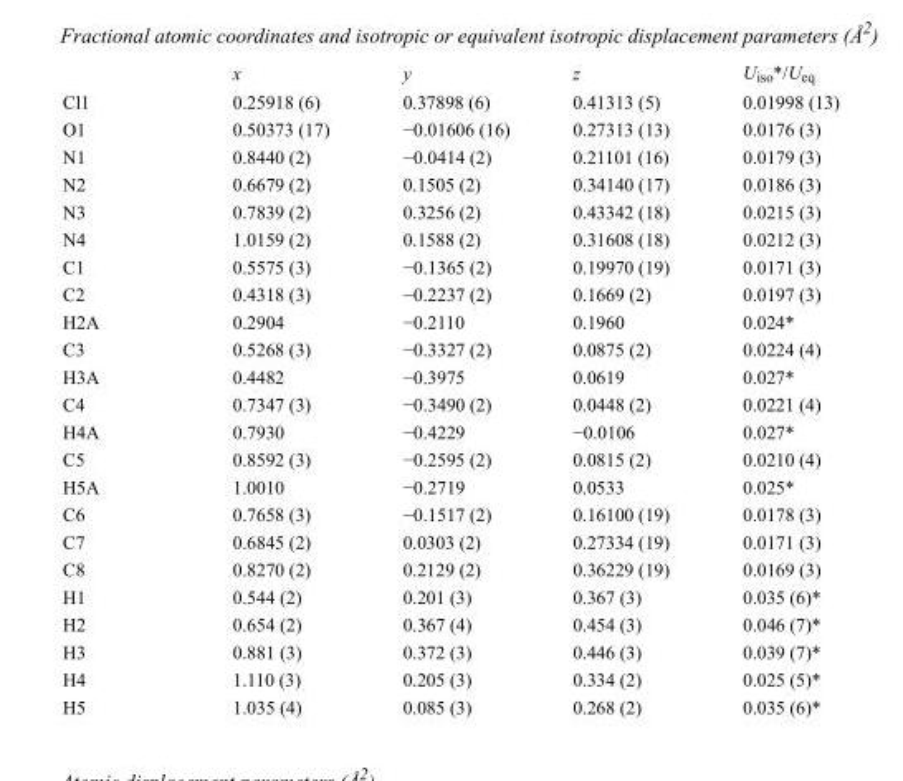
<table><thead><tr><td></td><td>x</td><td>y</td><td>z</td><td>U<sub>iso</sub>*/U<sub>eq</sub></td></tr></thead><tbody><tr><td>Cl1</td><td>0.25918 (6)</td><td>0.37898 (6)</td><td>0.41313 (5)</td><td>0.01998 (13)</td></tr><tr><td>O1</td><td>0.50373 (17)</td><td>−0.01606 (16)</td><td>0.27313 (13)</td><td>0.0176 (3)</td></tr><tr><td>N1</td><td>0.8440 (2)</td><td>−0.0414 (2)</td><td>0.21101 (16)</td><td>0.0179 (3)</td></tr><tr><td>N2</td><td>0.6679 (2)</td><td>0.1505 (2)</td><td>0.34140 (17)</td><td>0.0186 (3)</td></tr><tr><td>N3</td><td>0.7839 (2)</td><td>0.3256 (2)</td><td>0.43342 (18)</td><td>0.0215 (3)</td></tr><tr><td>N4</td><td>1.0159 (2)</td><td>0.1588 (2)</td><td>0.31608 (18)</td><td>0.0212 (3)</td></tr><tr><td>C1</td><td>0.5575 (3)</td><td>−0.1365 (2)</td><td>0.19970 (19)</td><td>0.0171 (3)</td></tr><tr><td>C2</td><td>0.4318 (3)</td><td>−0.2237 (2)</td><td>0.1669 (2)</td><td>0.0197 (3)</td></tr><tr><td>H2A</td><td>0.2904</td><td>−0.2110</td><td>0.1960</td><td>0.024*</td></tr><tr><td>C3</td><td>0.5268 (3)</td><td>−0.3327 (2)</td><td>0.0875 (2)</td><td>0.0224 (4)</td></tr><tr><td>H3A</td><td>0.4482</td><td>−0.3975</td><td>0.0619</td><td>0.027*</td></tr><tr><td>C4</td><td>0.7347 (3)</td><td>−0.3490 (2)</td><td>0.0448 (2)</td><td>0.0221 (4)</td></tr><tr><td>H4A</td><td>0.7930</td><td>−0.4229</td><td>−0.0106</td><td>0.027*</td></tr><tr><td>C5</td><td>0.8592 (3)</td><td>−0.2595 (2)</td><td>0.0815 (2)</td><td>0.0210 (4)</td></tr><tr><td>H5A</td><td>1.0010</td><td>−0.2719</td><td>0.0533</td><td>0.025*</td></tr><tr><td>C6</td><td>0.7658 (3)</td><td>−0.1517 (2)</td><td>0.16100 (19)</td><td>0.0178 (3)</td></tr><tr><td>C7</td><td>0.6845 (2)</td><td>0.0303 (2)</td><td>0.27334 (19)</td><td>0.0171 (3)</td></tr><tr><td>C8</td><td>0.8270 (2)</td><td>0.2129 (2)</td><td>0.36229 (19)</td><td>0.0169 (3)</td></tr><tr><td>H1</td><td>0.544 (2)</td><td>0.201 (3)</td><td>0.367 (3)</td><td>0.035 (6)*</td></tr><tr><td>H2</td><td>0.654 (2)</td><td>0.367 (4)</td><td>0.454 (3)</td><td>0.046 (7)*</td></tr><tr><td>H3</td><td>0.881 (3)</td><td>0.372 (3)</td><td>0.446 (3)</td><td>0.039 (7)*</td></tr><tr><td>H4</td><td>1.110 (3)</td><td>0.205 (3)</td><td>0.334 (2)</td><td>0.025 (5)*</td></tr><tr><td>H5</td><td>1.035 (4)</td><td>0.085 (3)</td><td>0.268 (2)</td><td>0.035 (6)*</td></tr></tbody></table>